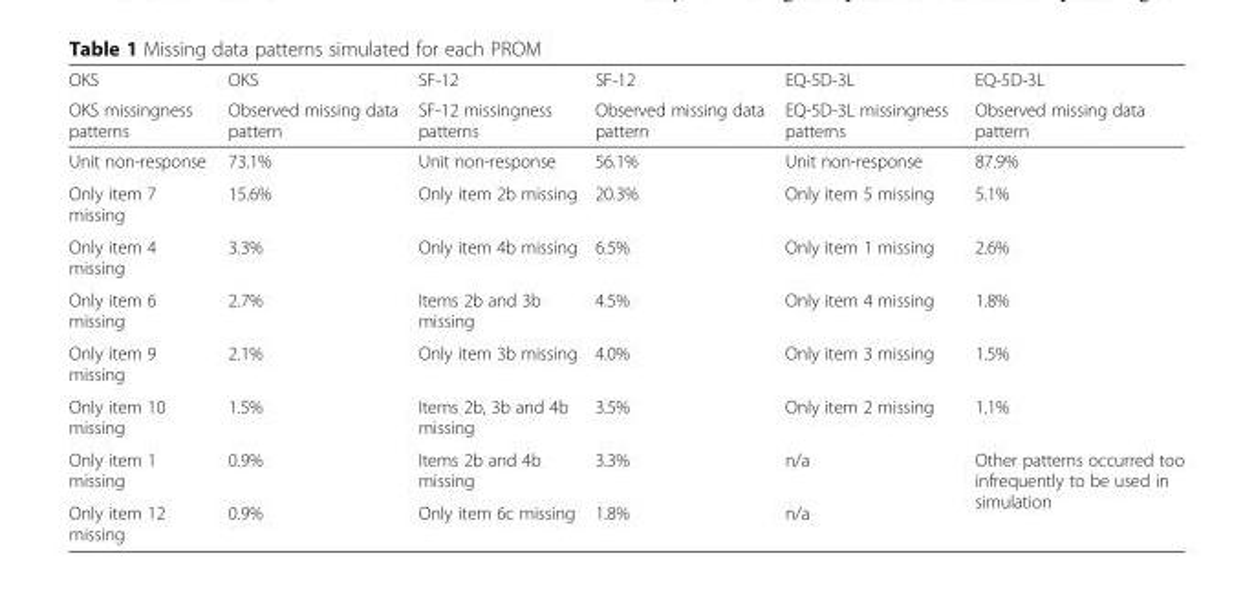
<table><thead><tr><td rowspan="2">OKS OKS missingness patterns</td><td rowspan="2">OKS Observed missing data pattern</td><td rowspan="2">SF-12 SF-12 missingness patterns</td><td rowspan="2">SF-12 Observed missing data pattern</td><td rowspan="2">EQ-5D-3L EQ-5D-3L missingness patterns</td><td rowspan="2">EQ-5D-3L Observed missing data pattern</td></tr><tr></tr></thead><tbody><tr><td>Unit non-response</td><td>73.1%</td><td>Unit non-response</td><td>56.1%</td><td>Unit non-response</td><td>87.9%</td></tr><tr><td>Only item 7 missing</td><td>15.6%</td><td>Only item 2b missing</td><td>20.3%</td><td>Only item 5 missing</td><td>5.1%</td></tr><tr><td>Only item 4 missing</td><td>3.3%</td><td>Only item 4b missing</td><td>6.5%</td><td>Only item 1 missing</td><td>2.6%</td></tr><tr><td>Only item 6 missing</td><td>2.7%</td><td>Items 2b and 3b missing</td><td>4.5%</td><td>Only item 4 missing</td><td>1.8%</td></tr><tr><td>Only item 9 missing</td><td>2.1%</td><td>Only item 3b missing</td><td>4.0%</td><td>Only item 3 missing</td><td>1.5%</td></tr><tr><td>Only item 10 missing</td><td>1.5%</td><td>Items 2b, 3b and 4b missing</td><td>3.5%</td><td>Only item 2 missing</td><td>1.1%</td></tr><tr><td>Only item 1 missing</td><td>0.9%</td><td>Items 2b and 4b missing</td><td>3.3%</td><td>n/a</td><td rowspan="2">Other patterns occurred too infrequently to be used in simulation</td></tr><tr><td>Only item 12 missing</td><td>0.9%</td><td>Only item 6c missing</td><td>1.8%</td><td>n/a</td></tr></tbody></table>